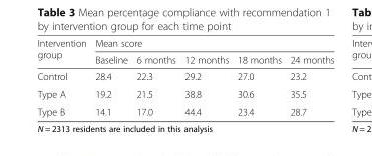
<table><thead><tr><td rowspan="2">Intervention group</td><td colspan="5">Mean score</td></tr><tr><td>Baseline</td><td>6 months</td><td>12 months</td><td>18 months</td><td>24 months</td></tr></thead><tbody><tr><td>Control</td><td>28.4</td><td>22.3</td><td>29.2</td><td>27.0</td><td>23.2</td></tr><tr><td>Type A</td><td>19.2</td><td>21.5</td><td>38.8</td><td>30.6</td><td>35.5</td></tr><tr><td>Type B</td><td>14.1</td><td>17.0</td><td>44.4</td><td>23.4</td><td>28.7</td></tr></tbody></table>